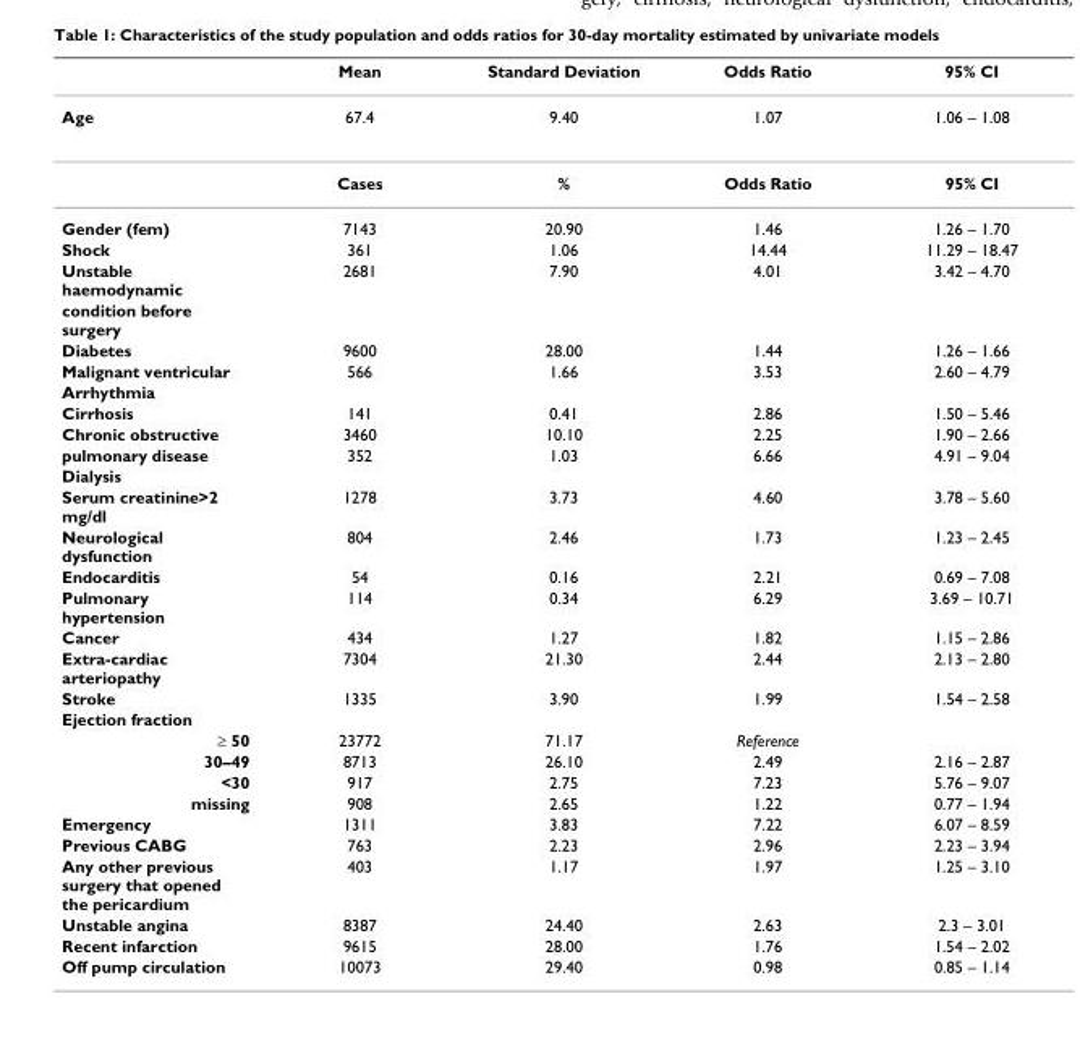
<table><thead><tr><td></td><td>Mean</td><td>Standard Deviation</td><td>Odds Ratio</td><td>95% CI</td></tr></thead><tbody><tr><td rowspan="2">Age</td><td>67.4</td><td>9.40</td><td>1.07</td><td>1.06 – 1.08</td></tr><tr><td>Cases</td><td>%</td><td>Odds Ratio</td><td>95% CI</td></tr><tr><td>Gender (fem)</td><td>7143</td><td>20.90</td><td>1.46</td><td>1.26 – 1.70</td></tr><tr><td>Shock</td><td>361</td><td>1.06</td><td>14.44</td><td>11.29 – 18.47</td></tr><tr><td>Unstable haemodynamic</td><td>2681</td><td>7.90</td><td>4.01</td><td>3.42 – 4.70</td></tr><tr><td colspan="5">condition before surgery</td></tr><tr><td>Diabetes</td><td>9600</td><td>28.00</td><td>1.44</td><td>1.26 – 1.66</td></tr><tr><td>Malignant ventricular</td><td>566</td><td>1.66</td><td>3.53</td><td>2.60 – 4.79</td></tr><tr><td colspan="5">Arrhythmia</td></tr><tr><td>Cirrhosis</td><td>141</td><td>0.41</td><td>2.86</td><td>1.50 – 5.46</td></tr><tr><td>Chronic obstructive</td><td>3460</td><td>10.10</td><td>2.25</td><td>1.90 – 2.66</td></tr><tr><td>pulmonary disease</td><td>352</td><td>1.03</td><td>6.66</td><td>4.91 – 9.04</td></tr><tr><td colspan="5">Dialysis</td></tr><tr><td>Serum creatinine&gt;2 mg/dl</td><td>1278</td><td>3.73</td><td>4.60</td><td>3.78 – 5.60</td></tr><tr><td>Neurological dysfunction</td><td>804</td><td>2.46</td><td>1.73</td><td>1.23 – 2.45</td></tr><tr><td>Endocarditis</td><td>54</td><td>0.16</td><td>2.21</td><td>0.69 – 7.08</td></tr><tr><td>Pulmonary hypertension</td><td>114</td><td>0.34</td><td>6.29</td><td>3.69 – 10.71</td></tr><tr><td>Cancer</td><td>434</td><td>1.27</td><td>1.82</td><td>1.15 – 2.86</td></tr><tr><td>Extra-cardiac arteriopathy</td><td>7304</td><td>21.30</td><td>2.44</td><td>2.13 – 2.80</td></tr><tr><td>Stroke</td><td>1335</td><td>3.90</td><td>1.99</td><td>1.54 – 2.58</td></tr><tr><td colspan="5">Ejection fraction</td></tr><tr><td>≥ 50</td><td>23772</td><td>71.17</td><td>Reference</td><td></td></tr><tr><td>30–49</td><td>8713</td><td>26.10</td><td>2.49</td><td>2.16 – 2.87</td></tr><tr><td>&lt;30</td><td>917</td><td>2.75</td><td>7.23</td><td>5.76 – 9.07</td></tr><tr><td>missing</td><td>908</td><td>2.65</td><td>1.22</td><td>0.77 – 1.94</td></tr><tr><td>Emergency</td><td>1311</td><td>3.83</td><td>7.22</td><td>6.07 – 8.59</td></tr><tr><td>Previous CABG</td><td>763</td><td>2.23</td><td>2.96</td><td>2.23 – 3.94</td></tr><tr><td>Any other previous surgery that opened the pericardium</td><td>403</td><td>1.17</td><td>1.97</td><td>1.25 – 3.10</td></tr><tr><td>Unstable angina</td><td>8387</td><td>24.40</td><td>2.63</td><td>2.3 – 3.01</td></tr><tr><td>Recent infarction</td><td>9615</td><td>28.00</td><td>1.76</td><td>1.54 – 2.02</td></tr><tr><td>Off pump circulation</td><td>10073</td><td>29.40</td><td>0.98</td><td>0.85 – 1.14</td></tr></tbody></table>